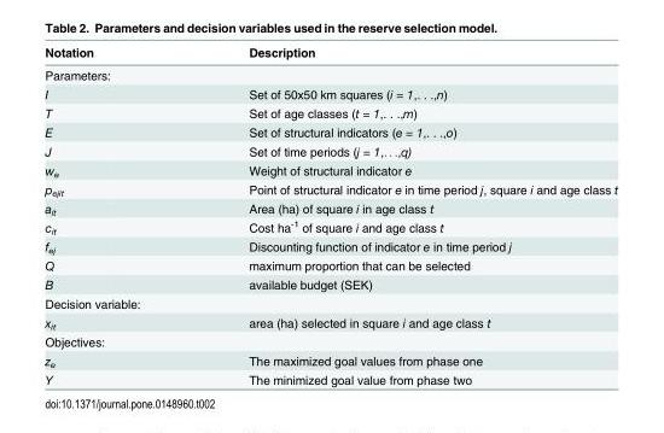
<table><thead><tr><td>Notation</td><td>Description</td></tr></thead><tbody><tr><td colspan="2">Parameters:</td></tr><tr><td>I</td><td>Set of 50x50 km squares (i = 1,. . .,n)</td></tr><tr><td>T</td><td>Set of age classes (t = 1,. . .,m)</td></tr><tr><td>E</td><td>Set of structural indicators (e = 1,. . .,o)</td></tr><tr><td>J</td><td>Set of time periods (j = 1,. . .,q)</td></tr><tr><td>w<sub>e</sub></td><td>Weight of structural indicator e</td></tr><tr><td>p<sub>ejit</sub></td><td>Point of structural indicator e in time period j, square i and age class t</td></tr><tr><td>a<sub>it</sub></td><td>Area (ha) of square i in age class t</td></tr><tr><td>c<sub>it</sub></td><td>Cost ha<sup>-1</sup> of square i and age class t</td></tr><tr><td>f<sub>ej</sub></td><td>Discounting function of indicator e in time period j</td></tr><tr><td>Q</td><td>maximum proportion that can be selected</td></tr><tr><td>B</td><td>available budget (SEK)</td></tr><tr><td colspan="2">Decision variable:</td></tr><tr><td>x<sub>it</sub></td><td>area (ha) selected in square i and age class t</td></tr><tr><td colspan="2">Objectives:</td></tr><tr><td>z<sub>e</sub></td><td>The maximized goal values from phase one</td></tr><tr><td>Y</td><td>The minimized goal value from phase two</td></tr></tbody></table>